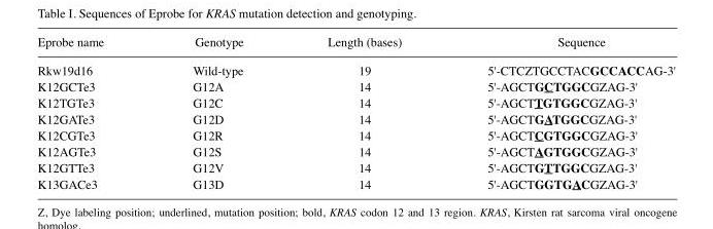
<table><thead><tr><td>Eprobe name</td><td>Genotype</td><td>Length (bases)</td><td>Sequence</td></tr></thead><tbody><tr><td>Rkw19d16</td><td>Wild-type</td><td>19</td><td>5&#x27;-CTCzTGCCTACGCCACCAG-3&#x27;</td></tr><tr><td>K12GCTe3</td><td>G12A</td><td>14</td><td>5&#x27;-AGCTGCTGGCGzAG-3&#x27;</td></tr><tr><td>K12TGTe3</td><td>G12C</td><td>14</td><td>5&#x27;-AGCTTGTGGCGzAG-3&#x27;</td></tr><tr><td>K12GATe3</td><td>G12D</td><td>14</td><td>5&#x27;-AGCTGATGGCGzAG-3&#x27;</td></tr><tr><td>K12CGTe3</td><td>G12R</td><td>14</td><td>5&#x27;-AGCTCGTGGCGzAG-3&#x27;</td></tr><tr><td>K12AGTe3</td><td>G12S</td><td>14</td><td>5&#x27;-AGCTAGTGGCGzAG-3&#x27;</td></tr><tr><td>K12GTTe3</td><td>G12V</td><td>14</td><td>5&#x27;-AGCTGTTGGCGzAG-3&#x27;</td></tr><tr><td>K13GACe3</td><td>G13D</td><td>14</td><td>5&#x27;-AGCTGGTGACGzAG-3&#x27;</td></tr></tbody></table>